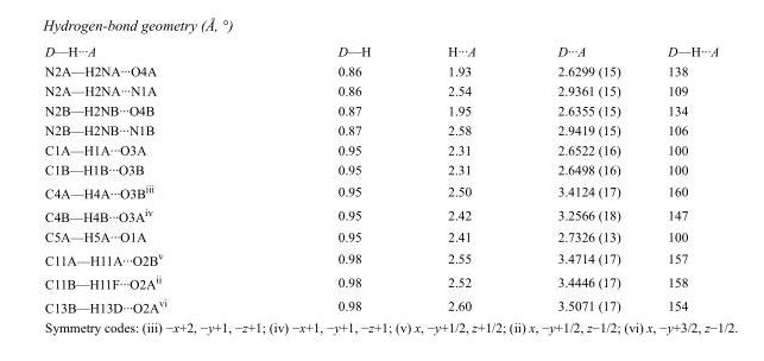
<table><tbody><tr><td>D—H···A</td><td>D—H</td><td>H···A</td><td>D···A</td><td>D—H···A</td></tr><tr><td>N2A—H2NA···O4A</td><td>0.86</td><td>1.93</td><td>2.6299 (15)</td><td>138</td></tr><tr><td>N2A—H2NA···N1A</td><td>0.86</td><td>2.54</td><td>2.9361 (15)</td><td>109</td></tr><tr><td>N2B—H2NB···O4B</td><td>0.87</td><td>1.95</td><td>2.6355 (15)</td><td>134</td></tr><tr><td>N2B—H2NB···N1B</td><td>0.87</td><td>2.58</td><td>2.9419 (15)</td><td>106</td></tr><tr><td>C1A—H1A···O3A</td><td>0.95</td><td>2.31</td><td>2.6522 (16)</td><td>100</td></tr><tr><td>C1B—H1B···O3B</td><td>0.95</td><td>2.31</td><td>2.6498 (16)</td><td>100</td></tr><tr><td>C4A—H4A···O3B<sup>iii</sup></td><td>0.95</td><td>2.50</td><td>3.4124 (17)</td><td>160</td></tr><tr><td>C4B—H4B···O3A<sup>iv</sup></td><td>0.95</td><td>2.42</td><td>3.2566 (18)</td><td>147</td></tr><tr><td>C5A—H5A···O1A</td><td>0.95</td><td>2.41</td><td>2.7326 (13)</td><td>100</td></tr><tr><td>C11A—H11A···O2B<sup>v</sup></td><td>0.98</td><td>2.55</td><td>3.4714 (17)</td><td>157</td></tr><tr><td>C11B—H11F···O2A<sup>ii</sup></td><td>0.98</td><td>2.52</td><td>3.4446 (17)</td><td>158</td></tr><tr><td>C13B—H13D···O2A<sup>vi</sup></td><td>0.98</td><td>2.60</td><td>3.5071 (17)</td><td>154</td></tr></tbody></table>